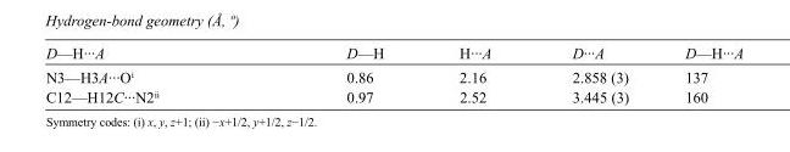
<table><tbody><tr><td>D—H···A</td><td>D—H</td><td>H···A</td><td>D···A</td><td>D—H···A</td></tr><tr><td>N3—H3A···O<sup>i</sup></td><td>0.86</td><td>2.16</td><td>2.858 (3)</td><td>137</td></tr><tr><td>C12—H12C···N2<sup>ii</sup></td><td>0.97</td><td>2.52</td><td>3.445 (3)</td><td>160</td></tr></tbody></table>